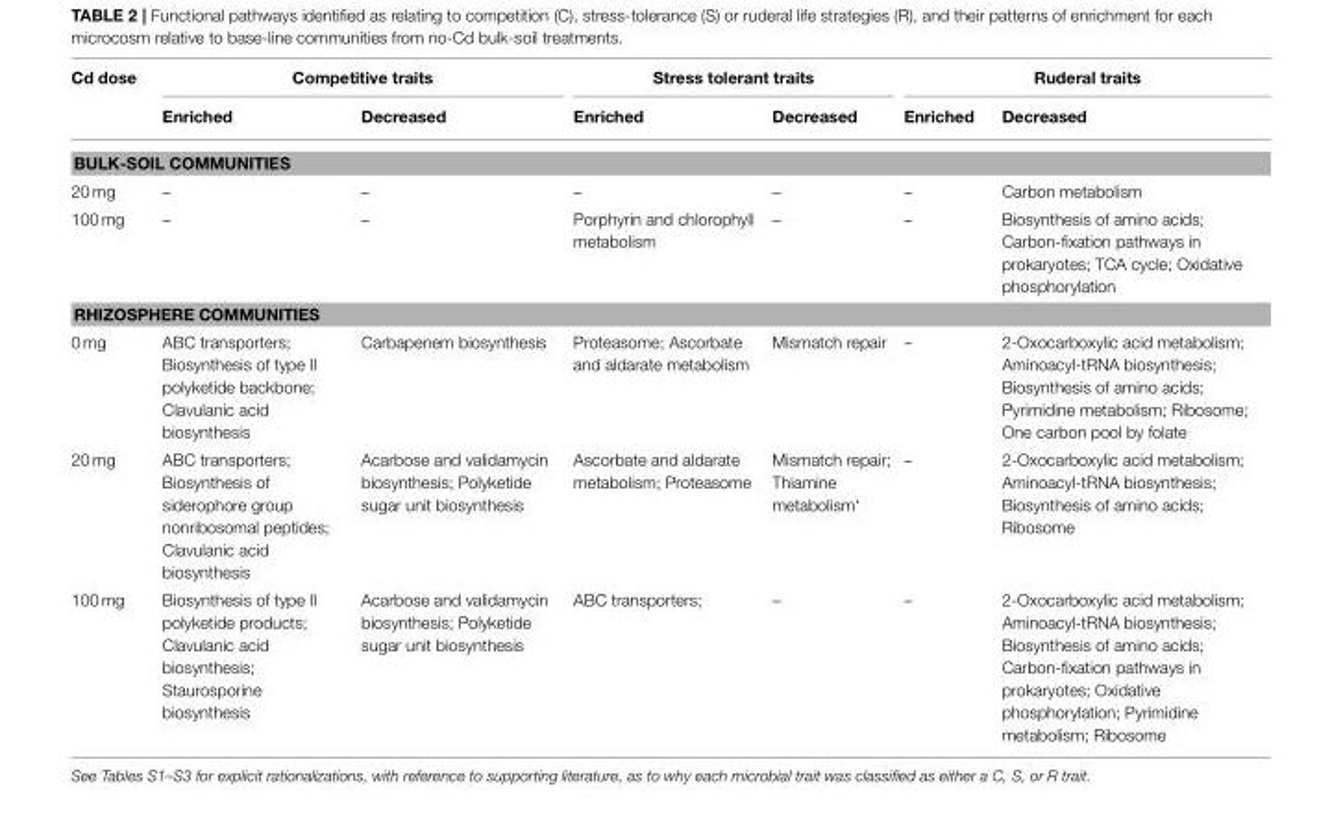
<table><thead><tr><td rowspan="2">Cd dose</td><td colspan="2">Competitive traits</td><td colspan="2">Stress tolerant traits</td><td colspan="2">Ruderal traits</td></tr><tr><td>Enriched</td><td>Decreased</td><td>Enriched</td><td>Decreased</td><td>Enriched</td><td>Decreased</td></tr></thead><tbody><tr><td colspan="7">BULK-SOIL COMMUNITIES</td></tr><tr><td>20 mg</td><td>–</td><td>–</td><td>–</td><td>–</td><td>–</td><td>Carbon metabolism</td></tr><tr><td>100 mg</td><td>–</td><td>–</td><td>Porphyrin and chlorophyll metabolism</td><td>–</td><td>–</td><td>Biosynthesis of amino acids; Carbon-fixation pathways in prokaryotes; TCA cycle; Oxidative phosphorylation</td></tr><tr><td colspan="7">RHIZOSPHERE COMMUNITIES</td></tr><tr><td>0 mg</td><td>ABC transporters; Biosynthesis of type II polyketide backbone; Clavulanic acid biosynthesis</td><td>Carbapenem biosynthesis</td><td>Proteasome; Ascorbate and aldarate metabolism</td><td>Mismatch repair</td><td>–</td><td>2-Oxocarboxylic acid metabolism; Aminoacyl-tRNA biosynthesis; Biosynthesis of amino acids; Pyrimidine metabolism; Ribosome; One carbon pool by folate</td></tr><tr><td>20 mg</td><td>ABC transporters; Biosynthesis of siderophore group nonribosomal peptides; Clavulanic acid biosynthesis</td><td>Acarbose and validamycin biosynthesis; Polyketide sugar unit biosynthesis</td><td>Ascorbate and aldarate metabolism; Proteasome</td><td>Mismatch repair; Thiamine metabolism‘</td><td>–</td><td>2-Oxocarboxylic acid metabolism; Aminoacyl-tRNA biosynthesis; Biosynthesis of amino acids; Ribosome</td></tr><tr><td>100 mg</td><td>Biosynthesis of type II polyketide products; Clavulanic acid biosynthesis; Staurosporine biosynthesis</td><td>Acarbose and validamycin biosynthesis; Polyketide sugar unit biosynthesis</td><td>ABC transporters;</td><td>–</td><td>–</td><td>2-Oxocarboxylic acid metabolism; Aminoacyl-tRNA biosynthesis; Biosynthesis of amino acids; Carbon-fixation pathways in prokaryotes; Oxidative phosphorylation; Pyrimidine metabolism; Ribosome</td></tr></tbody></table>